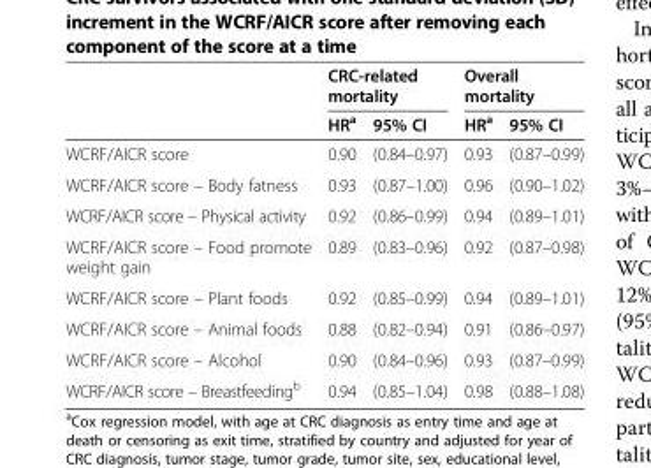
<table><thead><tr><td rowspan="2"></td><td colspan="2">CRC-related mortality</td><td colspan="2">Overall mortality</td></tr><tr><td>HR<sup>a</sup></td><td>95% CI</td><td>HR<sup>a</sup></td><td>95% CI</td></tr></thead><tbody><tr><td>WCRF/AICR score</td><td>0.90</td><td>(0.84–0.97)</td><td>0.93</td><td>(0.87–0.99)</td></tr><tr><td>WCRF/AICR score – Body fatness</td><td>0.93</td><td>(0.87–1.00)</td><td>0.96</td><td>(0.90–1.02)</td></tr><tr><td>WCRF/AICR score – Physical activity</td><td>0.92</td><td>(0.86–0.99)</td><td>0.94</td><td>(0.89–1.01)</td></tr><tr><td>WCRF/AICR score – Food promote weight gain</td><td>0.89</td><td>(0.83–0.96)</td><td>0.92</td><td>(0.87–0.98)</td></tr><tr><td>WCRF/AICR score – Plant foods</td><td>0.92</td><td>(0.85–0.99)</td><td>0.94</td><td>(0.89–1.01)</td></tr><tr><td>WCRF/AICR score – Animal foods</td><td>0.88</td><td>(0.82–0.94)</td><td>0.91</td><td>(0.86–0.97)</td></tr><tr><td>WCRF/AICR score – Alcohol</td><td>0.90</td><td>(0.84–0.96)</td><td>0.93</td><td>(0.87–0.99)</td></tr><tr><td>WCRF/AICR score – Breastfeeding<sup>b</sup></td><td>0.94</td><td>(0.85–1.04)</td><td>0.98</td><td>(0.88–1.08)</td></tr></tbody></table>